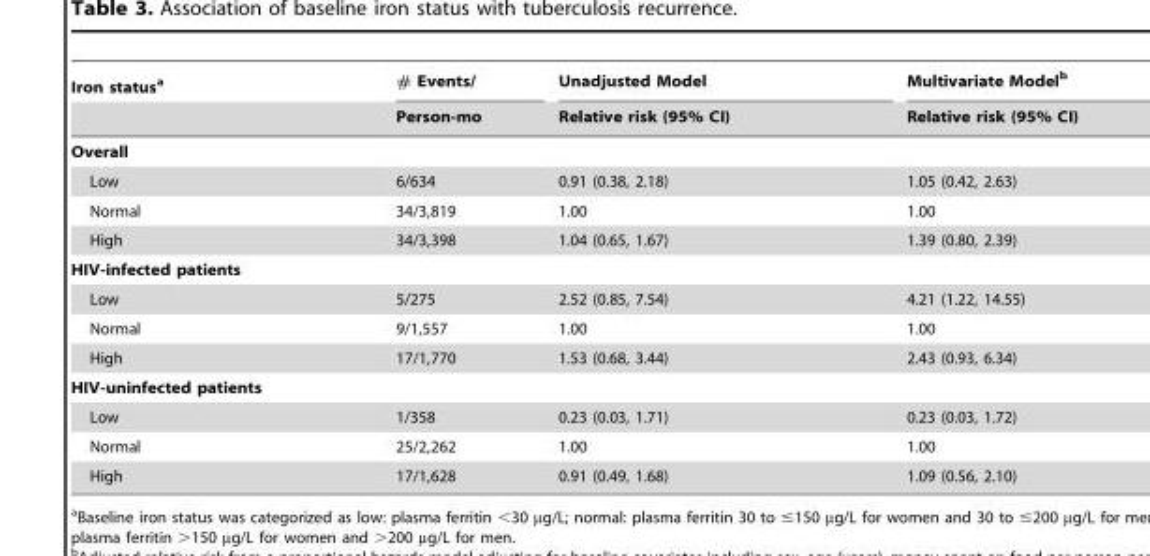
<table><thead><tr><td rowspan="2">Iron status<sup>a</sup></td><td rowspan="2"># Events/ Person-mo</td><td rowspan="2">Unadjusted Model Relative risk (95% CI)</td><td rowspan="2">Multivariate Model<sup>b</sup> Relative risk (95% CI)</td></tr><tr></tr></thead><tbody><tr><td colspan="4">Overall</td></tr><tr><td>Low</td><td>6/634</td><td>0.91 (0.38, 2.18)</td><td>1.05 (0.42, 2.63)</td></tr><tr><td>Normal</td><td>34/3,819</td><td>1.00</td><td>1.00</td></tr><tr><td>High</td><td>34/3,398</td><td>1.04 (0.65, 1.67)</td><td>1.39 (0.80, 2.39)</td></tr><tr><td colspan="4">HIV-infected patients</td></tr><tr><td>Low</td><td>5/275</td><td>2.52 (0.85, 7.54)</td><td>4.21 (1.22, 14.55)</td></tr><tr><td>Normal</td><td>9/1,557</td><td>1.00</td><td>1.00</td></tr><tr><td>High</td><td>17/1,770</td><td>1.53 (0.68, 3.44)</td><td>2.43 (0.93, 6.34)</td></tr><tr><td colspan="4">HIV-uninfected patients</td></tr><tr><td>Low</td><td>1/358</td><td>0.23 (0.03, 1.71)</td><td>0.23 (0.03, 1.72)</td></tr><tr><td>Normal</td><td>25/2,262</td><td>1.00</td><td>1.00</td></tr><tr><td>High</td><td>17/1,628</td><td>0.91 (0.49, 1.68)</td><td>1.09 (0.56, 2.10)</td></tr></tbody></table>